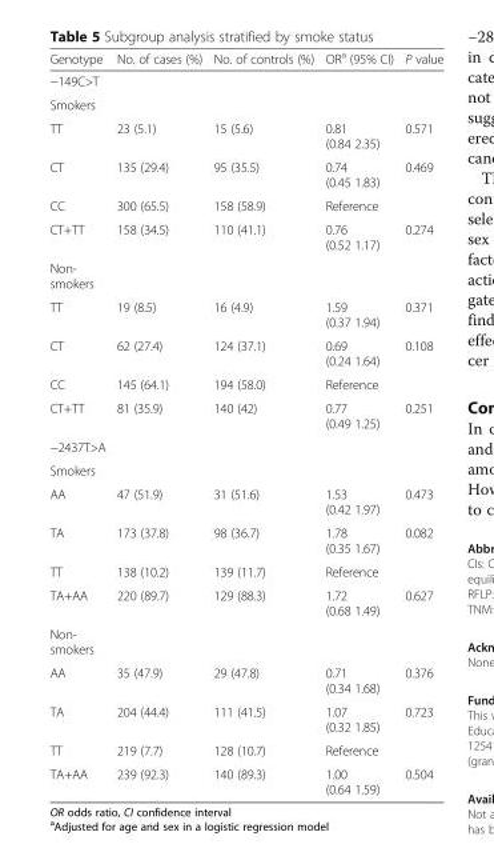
<table><thead><tr><td>Genotype</td><td>No. of cases (%)</td><td>No. of controls (%)</td><td>OR<sup>a</sup> (95% CI)</td><td>P value</td></tr></thead><tbody><tr><td colspan="5">−149C&gt;T</td></tr><tr><td colspan="5">Smokers</td></tr><tr><td>TT</td><td>23 (5.1)</td><td>15 (5.6)</td><td>0.81 (0.84 2.35)</td><td>0.571</td></tr><tr><td>CT</td><td>135 (29.4)</td><td>95 (35.5)</td><td>0.74 (0.45 1.83)</td><td>0.469</td></tr><tr><td>CC</td><td>300 (65.5)</td><td>158 (58.9)</td><td>Reference</td><td></td></tr><tr><td>CT+TT</td><td>158 (34.5)</td><td>110 (41.1)</td><td>0.76 (0.52 1.17)</td><td>0.274</td></tr><tr><td colspan="5">Non- smokers</td></tr><tr><td>TT</td><td>19 (8.5)</td><td>16 (4.9)</td><td>1.59 (0.37 1.94)</td><td>0.371</td></tr><tr><td>CT</td><td>62 (27.4)</td><td>124 (37.1)</td><td>0.69 (0.24 1.64)</td><td>0.108</td></tr><tr><td>CC</td><td>145 (64.1)</td><td>194 (58.0)</td><td>Reference</td><td></td></tr><tr><td>CT+TT</td><td>81 (35.9)</td><td>140 (42)</td><td>0.77 (0.49 1.25)</td><td>0.251</td></tr><tr><td colspan="5">−2437T&gt;A</td></tr><tr><td colspan="5">Smokers</td></tr><tr><td>AA</td><td>47 (51.9)</td><td>31 (51.6)</td><td>1.53 (0.42 1.97)</td><td>0.473</td></tr><tr><td>TA</td><td>173 (37.8)</td><td>98 (36.7)</td><td>1.78 (0.35 1.67)</td><td>0.082</td></tr><tr><td>TT</td><td>138 (10.2)</td><td>139 (11.7)</td><td>Reference</td><td></td></tr><tr><td>TA+AA</td><td>220 (89.7)</td><td>129 (88.3)</td><td>1.72 (0.68 1.49)</td><td>0.627</td></tr><tr><td colspan="5">Non- smokers</td></tr><tr><td>AA</td><td>35 (47.9)</td><td>29 (47.8)</td><td>0.71 (0.34 1.68)</td><td>0.376</td></tr><tr><td>TA</td><td>204 (44.4)</td><td>111 (41.5)</td><td>1.07 (0.32 1.85)</td><td>0.723</td></tr><tr><td>TT</td><td>219 (7.7)</td><td>128 (10.7)</td><td>Reference</td><td></td></tr><tr><td>TA+AA</td><td>239 (92.3)</td><td>140 (89.3)</td><td>1.00 (0.64 1.59)</td><td>0.504</td></tr></tbody></table>